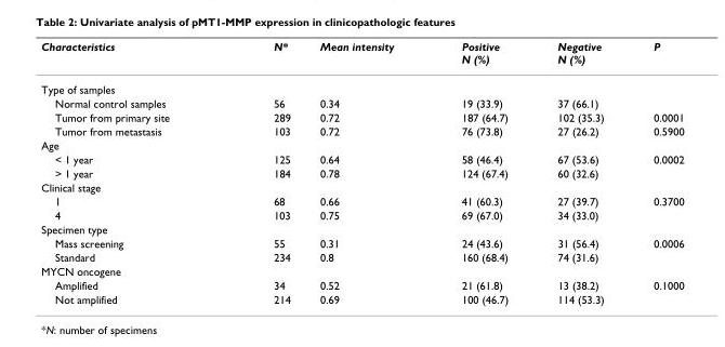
<table><thead><tr><td>Characteristics</td><td>N*</td><td>Mean intensity</td><td>Positive N (%)</td><td>Negative N (%)</td><td>P</td></tr></thead><tbody><tr><td colspan="6">Type of samples</td></tr><tr><td>Normal control samples</td><td>56</td><td>0.34</td><td>19 (33.9)</td><td>37 (66.1)</td><td></td></tr><tr><td>Tumor from primary site</td><td>289</td><td>0.72</td><td>187 (64.7)</td><td>102 (35.3)</td><td>0.0001</td></tr><tr><td>Tumor from metastasis</td><td>103</td><td>0.72</td><td>76 (73.8)</td><td>27 (26.2)</td><td>0.5900</td></tr><tr><td colspan="6">Age</td></tr><tr><td>&lt; 1 year</td><td>125</td><td>0.64</td><td>58 (46.4)</td><td>67 (53.6)</td><td>0.0002</td></tr><tr><td>&gt; 1 year</td><td>184</td><td>0.78</td><td>124 (67.4)</td><td>60 (32.6)</td><td></td></tr><tr><td colspan="6">Clinical stage</td></tr><tr><td>1</td><td>68</td><td>0.66</td><td>41 (60.3)</td><td>27 (39.7)</td><td>0.3700</td></tr><tr><td>4</td><td>103</td><td>0.75</td><td>69 (67.0)</td><td>34 (33.0)</td><td></td></tr><tr><td colspan="6">Specimen type</td></tr><tr><td>Mass screening</td><td>55</td><td>0.31</td><td>24 (43.6)</td><td>31 (56.4)</td><td>0.0006</td></tr><tr><td>Standard</td><td>234</td><td>0.8</td><td>160 (68.4)</td><td>74 (31.6)</td><td></td></tr><tr><td colspan="6">MYCN oncogene</td></tr><tr><td>Amplified</td><td>34</td><td>0.52</td><td>21 (61.8)</td><td>13 (38.2)</td><td>0.1000</td></tr><tr><td>Not amplified</td><td>214</td><td>0.69</td><td>100 (46.7)</td><td>114 (53.3)</td><td></td></tr></tbody></table>